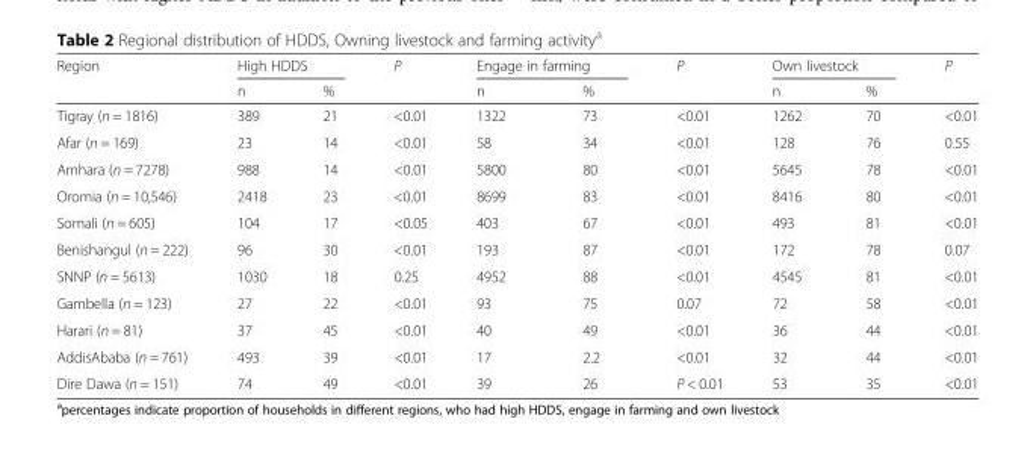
<table><thead><tr><td rowspan="2">Region</td><td colspan="2">High HDDS</td><td rowspan="2">P</td><td colspan="2">Engage in farming</td><td rowspan="2">P</td><td colspan="2">Own livestock</td><td rowspan="2">P</td></tr><tr><td>n</td><td>%</td><td>n</td><td>%</td><td>n</td><td>%</td></tr></thead><tbody><tr><td>Tigray (n = 1816)</td><td>389</td><td>21</td><td>&lt;0.01</td><td>1322</td><td>73</td><td>&lt;0.01</td><td>1262</td><td>70</td><td>&lt;0.01</td></tr><tr><td>Afar (n = 169)</td><td>23</td><td>14</td><td>&lt;0.01</td><td>58</td><td>34</td><td>&lt;0.01</td><td>128</td><td>76</td><td>0.55</td></tr><tr><td>Amhara (n = 7278)</td><td>988</td><td>14</td><td>&lt;0.01</td><td>5800</td><td>80</td><td>&lt;0.01</td><td>5645</td><td>78</td><td>&lt;0.01</td></tr><tr><td>Oromia (n = 10,546)</td><td>2418</td><td>23</td><td>&lt;0.01</td><td>8699</td><td>83</td><td>&lt;0.01</td><td>8416</td><td>80</td><td>&lt;0.01</td></tr><tr><td>Somali (n = 605)</td><td>104</td><td>17</td><td>&lt;0.05</td><td>403</td><td>67</td><td>&lt;0.01</td><td>493</td><td>81</td><td>&lt;0.01</td></tr><tr><td>Benishangul (n = 222)</td><td>96</td><td>30</td><td>&lt;0.01</td><td>193</td><td>87</td><td>&lt;0.01</td><td>172</td><td>78</td><td>0.07</td></tr><tr><td>SNNP (n = 5613)</td><td>1030</td><td>18</td><td>0.25</td><td>4952</td><td>88</td><td>&lt;0.01</td><td>4545</td><td>81</td><td>&lt;0.01</td></tr><tr><td>Gambella (n = 123)</td><td>27</td><td>22</td><td>&lt;0.01</td><td>93</td><td>75</td><td>0.07</td><td>72</td><td>58</td><td>&lt;0.01</td></tr><tr><td>Harari (n = 81)</td><td>37</td><td>45</td><td>&lt;0.01</td><td>40</td><td>49</td><td>&lt;0.01</td><td>36</td><td>44</td><td>&lt;0.01</td></tr><tr><td>AddisAbaba (n = 761)</td><td>493</td><td>39</td><td>&lt;0.01</td><td>17</td><td>2.2</td><td>&lt;0.01</td><td>32</td><td>44</td><td>&lt;0.01</td></tr><tr><td>Dire Dawa (n = 151)</td><td>74</td><td>49</td><td>&lt;0.01</td><td>39</td><td>26</td><td>P &lt; 0.01</td><td>53</td><td>35</td><td>&lt;0.01</td></tr></tbody></table>